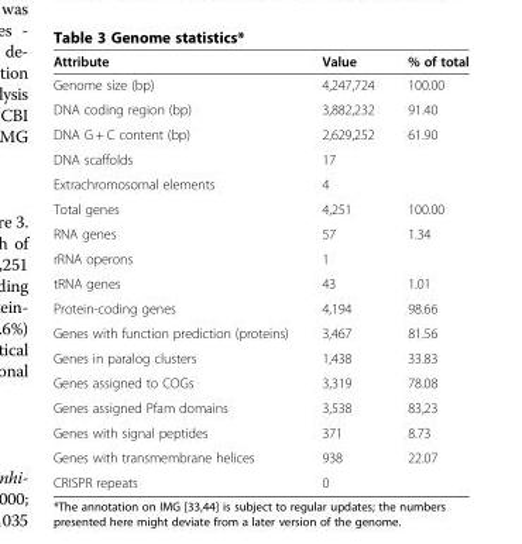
<table><thead><tr><td>Attribute</td><td>Value</td><td>% of total</td></tr></thead><tbody><tr><td>Genome size (bp)</td><td>4,247,724</td><td>100.00</td></tr><tr><td>DNA coding region (bp)</td><td>3,882,232</td><td>91.40</td></tr><tr><td>DNA G + C content (bp)</td><td>2,629,252</td><td>61.90</td></tr><tr><td>DNA scaffolds</td><td>17</td><td></td></tr><tr><td>Extrachromosomal elements</td><td>4</td><td></td></tr><tr><td>Total genes</td><td>4,251</td><td>100.00</td></tr><tr><td>RNA genes</td><td>57</td><td>1.34</td></tr><tr><td>rRNA operons</td><td>1</td><td></td></tr><tr><td>tRNA genes</td><td>43</td><td>1.01</td></tr><tr><td>Protein-coding genes</td><td>4,194</td><td>98.66</td></tr><tr><td>Genes with function prediction (proteins)</td><td>3,467</td><td>81.56</td></tr><tr><td>Genes in paralog clusters</td><td>1,438</td><td>33.83</td></tr><tr><td>Genes assigned to COGs</td><td>3,319</td><td>78.08</td></tr><tr><td>Genes assigned Pfam domains</td><td>3,538</td><td>83,23</td></tr><tr><td>Genes with signal peptides</td><td>371</td><td>8.73</td></tr><tr><td>Genes with transmembrane helices</td><td>938</td><td>22.07</td></tr><tr><td>CRISPR repeats</td><td>0</td><td></td></tr></tbody></table>